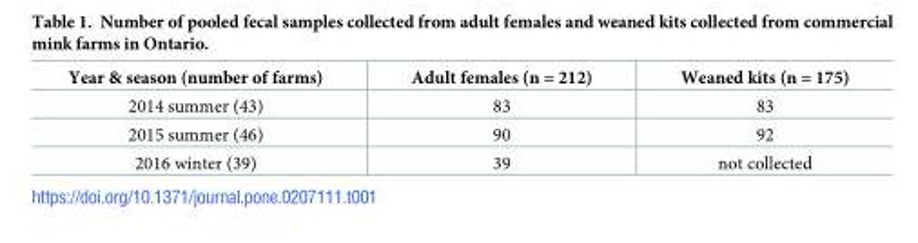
<table><thead><tr><td>Year &amp; season (number of farms)</td><td>Adult females (n = 212)</td><td>Weaned kits (n = 175)</td></tr></thead><tbody><tr><td>2014 summer (43)</td><td>83</td><td>83</td></tr><tr><td>2015 summer (46)</td><td>90</td><td>92</td></tr><tr><td>2016 winter (39)</td><td>39</td><td>not collected</td></tr></tbody></table>